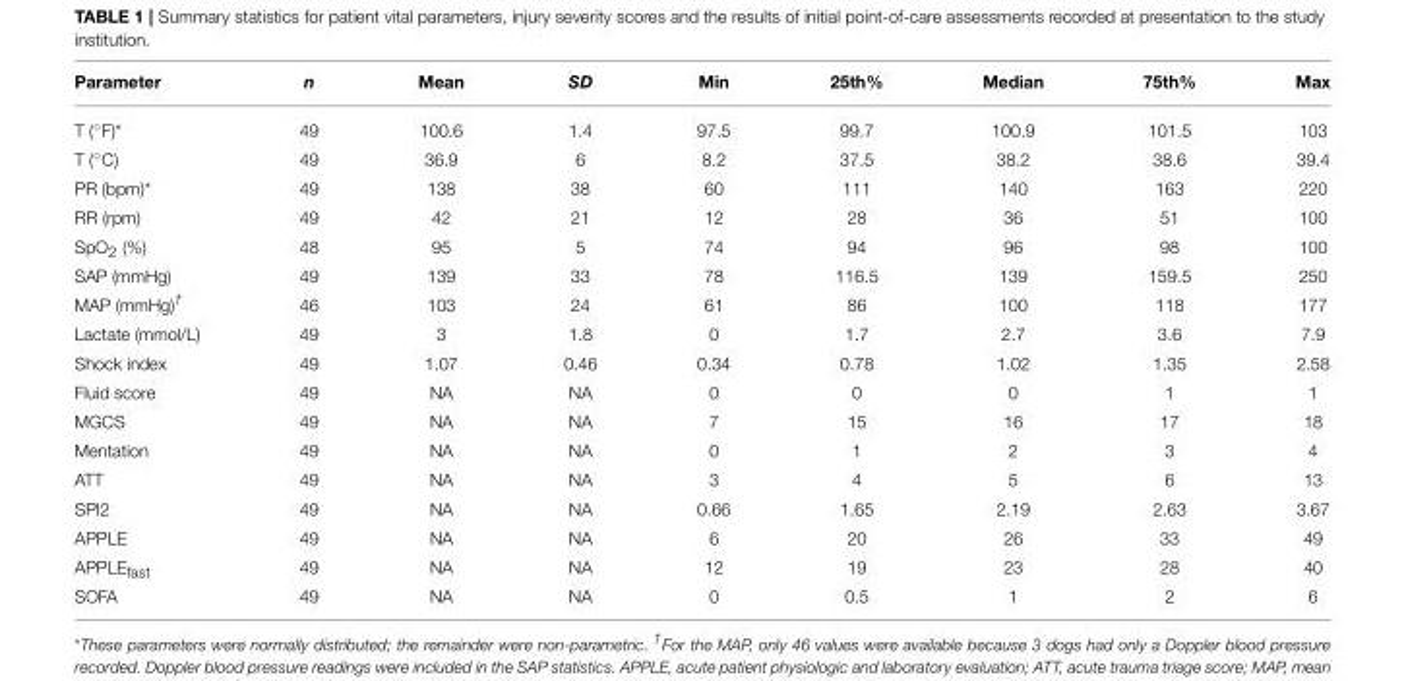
<table><thead><tr><td>Parameter</td><td>n</td><td>Mean</td><td>SD</td><td>Min</td><td>25th%</td><td>Median</td><td>75th%</td><td>Max</td></tr></thead><tbody><tr><td>T (◦F)*</td><td>49</td><td>100.6</td><td>1.4</td><td>97.5</td><td>99.7</td><td>100.9</td><td>101.5</td><td>103</td></tr><tr><td>T (◦C)</td><td>49</td><td>36.9</td><td>6</td><td>8.2</td><td>37.5</td><td>38.2</td><td>38.6</td><td>39.4</td></tr><tr><td>PR (bpm)*</td><td>49</td><td>138</td><td>38</td><td>60</td><td>111</td><td>140</td><td>163</td><td>220</td></tr><tr><td>RR (rpm)</td><td>49</td><td>42</td><td>21</td><td>12</td><td>28</td><td>36</td><td>51</td><td>100</td></tr><tr><td>SpO<sub>2</sub> (%)</td><td>48</td><td>95</td><td>5</td><td>74</td><td>94</td><td>96</td><td>98</td><td>100</td></tr><tr><td>SAP (mmHg)</td><td>49</td><td>139</td><td>33</td><td>78</td><td>116.5</td><td>139</td><td>159.5</td><td>250</td></tr><tr><td>MAP (mmHg)<sup>†</sup></td><td>46</td><td>103</td><td>24</td><td>61</td><td>86</td><td>100</td><td>118</td><td>177</td></tr><tr><td>Lactate (mmol/L)</td><td>49</td><td>3</td><td>1.8</td><td>0</td><td>1.7</td><td>2.7</td><td>3.6</td><td>7.9</td></tr><tr><td>Shock index</td><td>49</td><td>1.07</td><td>0.46</td><td>0.34</td><td>0.78</td><td>1.02</td><td>1.35</td><td>2.58</td></tr><tr><td>Fluid score</td><td>49</td><td>NA</td><td>NA</td><td>0</td><td>0</td><td>0</td><td>1</td><td>1</td></tr><tr><td>MGCS</td><td>49</td><td>NA</td><td>NA</td><td>7</td><td>15</td><td>16</td><td>17</td><td>18</td></tr><tr><td>Mentation</td><td>49</td><td>NA</td><td>NA</td><td>0</td><td>1</td><td>2</td><td>3</td><td>4</td></tr><tr><td>ATT</td><td>49</td><td>NA</td><td>NA</td><td>3</td><td>4</td><td>5</td><td>6</td><td>13</td></tr><tr><td>SPI2</td><td>49</td><td>NA</td><td>NA</td><td>0.66</td><td>1.65</td><td>2.19</td><td>2.63</td><td>3.67</td></tr><tr><td>APPLE</td><td>49</td><td>NA</td><td>NA</td><td>6</td><td>20</td><td>26</td><td>33</td><td>49</td></tr><tr><td>APPLE<sub>fast</sub></td><td>49</td><td>NA</td><td>NA</td><td>12</td><td>19</td><td>23</td><td>28</td><td>40</td></tr><tr><td>SOFA</td><td>49</td><td>NA</td><td>NA</td><td>0</td><td>0.5</td><td>1</td><td>2</td><td>6</td></tr></tbody></table>